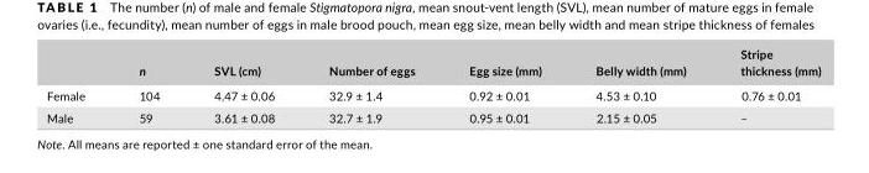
<table><thead><tr><td></td><td>n</td><td>SVL (cm)</td><td>Number of eggs</td><td>Egg size (mm)</td><td>Belly width (mm)</td><td>Stripe thickness (mm)</td></tr></thead><tbody><tr><td>Female</td><td>104</td><td>4.47 ± 0.06</td><td>32.9 ± 1.4</td><td>0.92 ± 0.01</td><td>4.53 ± 0.10</td><td>0.76 ± 0.01</td></tr><tr><td>Male</td><td>59</td><td>3.61 ± 0.08</td><td>32.7 ± 1.9</td><td>0.95 ± 0.01</td><td>2.15 ± 0.05</td><td>–</td></tr></tbody></table>